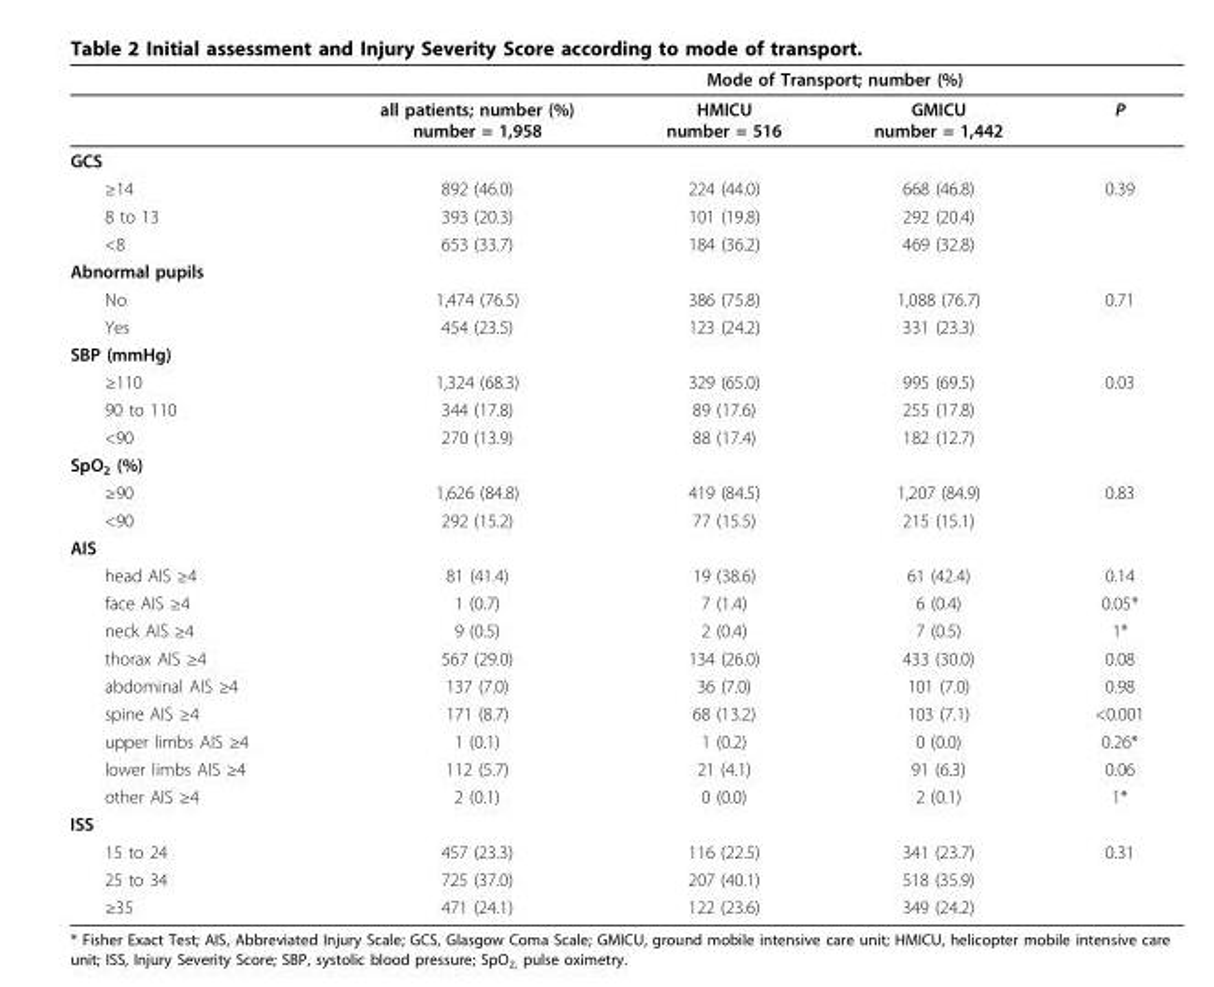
<table><thead><tr><td rowspan="2"></td><td rowspan="2">all patients; number (%) number = 1,958</td><td colspan="2">Mode of Transport; number (%)</td><td rowspan="2">P</td></tr><tr><td>HMICU number = 516</td><td>GMICU number = 1,442</td></tr></thead><tbody><tr><td colspan="5">GCS</td></tr><tr><td>≥14</td><td>892 (46.0)</td><td>224 (44.0)</td><td>668 (46.8)</td><td>0.39</td></tr><tr><td>8 to 13</td><td>393 (20.3)</td><td>101 (19.8)</td><td>292 (20.4)</td><td></td></tr><tr><td>&lt;8</td><td>653 (33.7)</td><td>184 (36.2)</td><td>469 (32.8)</td><td></td></tr><tr><td colspan="5">Abnormal pupils</td></tr><tr><td>No</td><td>1,474 (76.5)</td><td>386 (75.8)</td><td>1,088 (76.7)</td><td>0.71</td></tr><tr><td>Yes</td><td>454 (23.5)</td><td>123 (24.2)</td><td>331 (23.3)</td><td></td></tr><tr><td colspan="5">SBP (mmHg)</td></tr><tr><td>≥110</td><td>1,324 (68.3)</td><td>329 (65.0)</td><td>995 (69.5)</td><td>0.03</td></tr><tr><td>90 to 110</td><td>344 (17.8)</td><td>89 (17.6)</td><td>255 (17.8)</td><td></td></tr><tr><td>&lt;90</td><td>270 (13.9)</td><td>88 (17.4)</td><td>182 (12.7)</td><td></td></tr><tr><td colspan="5">SpO<sub>2</sub> (%)</td></tr><tr><td>≥90</td><td>1,626 (84.8)</td><td>419 (84.5)</td><td>1,207 (84.9)</td><td>0.83</td></tr><tr><td>&lt;90</td><td>292 (15.2)</td><td>77 (15.5)</td><td>215 (15.1)</td><td></td></tr><tr><td colspan="5">AIS</td></tr><tr><td>head AIS ≥4</td><td>81 (41.4)</td><td>19 (38.6)</td><td>61 (42.4)</td><td>0.14</td></tr><tr><td>face AIS ≥4</td><td>1 (0.7)</td><td>7 (1.4)</td><td>6 (0.4)</td><td>0.05*</td></tr><tr><td>neck AIS ≥4</td><td>9 (0.5)</td><td>2 (0.4)</td><td>7 (0.5)</td><td>1*</td></tr><tr><td>thorax AIS ≥4</td><td>567 (29.0)</td><td>134 (26.0)</td><td>433 (30.0)</td><td>0.08</td></tr><tr><td>abdominal AIS ≥4</td><td>137 (7.0)</td><td>36 (7.0)</td><td>101 (7.0)</td><td>0.98</td></tr><tr><td>spine AIS ≥4</td><td>171 (8.7)</td><td>68 (13.2)</td><td>103 (7.1)</td><td>&lt;0.001</td></tr><tr><td>upper limbs AIS ≥4</td><td>1 (0.1)</td><td>1 (0.2)</td><td>0 (0.0)</td><td>0.26*</td></tr><tr><td>lower limbs AIS ≥4</td><td>112 (5.7)</td><td>21 (4.1)</td><td>91 (6.3)</td><td>0.06</td></tr><tr><td>other AIS ≥4</td><td>2 (0.1)</td><td>0 (0.0)</td><td>2 (0.1)</td><td>1*</td></tr><tr><td colspan="5">ISS</td></tr><tr><td>15 to 24</td><td>457 (23.3)</td><td>116 (22.5)</td><td>341 (23.7)</td><td>0.31</td></tr><tr><td>25 to 34</td><td>725 (37.0)</td><td>207 (40.1)</td><td>518 (35.9)</td><td></td></tr><tr><td>≥35</td><td>471 (24.1)</td><td>122 (23.6)</td><td>349 (24.2)</td><td></td></tr></tbody></table>